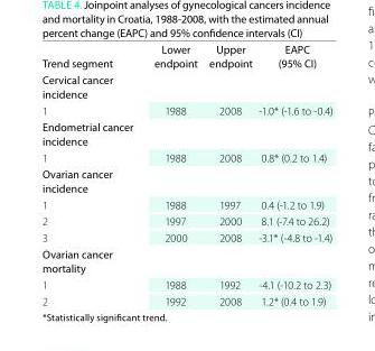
<table><thead><tr><td>Trend segment</td><td>lower endpoint</td><td>upper endpoint</td><td>eAPC (95% CI)</td></tr></thead><tbody><tr><td colspan="4">Cervical cancer incidence</td></tr><tr><td>1</td><td>1988</td><td>2008</td><td>-1.0* (-1.6 to -0.4)</td></tr><tr><td colspan="4">endometrial cancer incidence</td></tr><tr><td>1</td><td>1988</td><td>2008</td><td>0.8* (0.2 to 1.4)</td></tr><tr><td colspan="4">ovarian cancer incidence</td></tr><tr><td>1</td><td>1988</td><td>1997</td><td>0.4 (-1.2 to 1.9)</td></tr><tr><td>2</td><td>1997</td><td>2000</td><td>8.1 (-7.4 to 26.2)</td></tr><tr><td>3</td><td>2000</td><td>2008</td><td>-3.1* (-4.8 to -1.4)</td></tr><tr><td colspan="4">ovarian cancer mortality</td></tr><tr><td>1</td><td>1988</td><td>1992</td><td>-4.1 (-10.2 to 2.3)</td></tr><tr><td>2</td><td>1992</td><td>2008</td><td>1.2* (0.4 to 1.9)</td></tr></tbody></table>